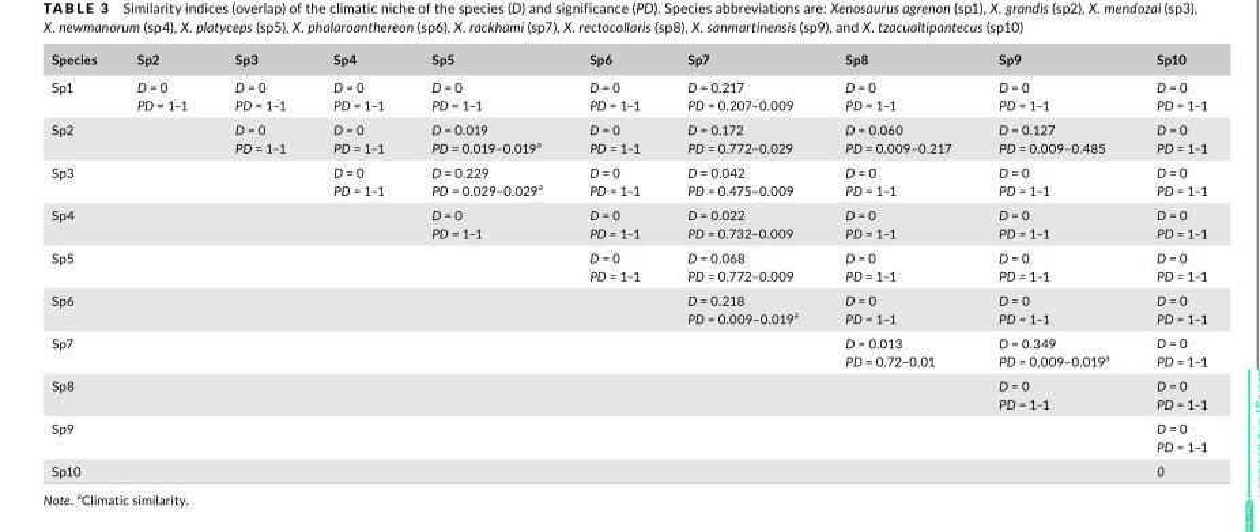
<table><thead><tr><td>Species</td><td>Sp2</td><td>Sp3</td><td>Sp4</td><td>Sp5</td><td>Sp6</td><td>Sp7</td><td>Sp8</td><td>Sp9</td><td>Sp10</td></tr></thead><tbody><tr><td>Sp1</td><td>D = 0 PD = 1–1</td><td>D = 0 PD = 1–1</td><td>D = 0 PD = 1–1</td><td>D = 0 PD = 1–1</td><td>D = 0 PD = 1–1</td><td>D = 0.217 PD = 0.207–0.009</td><td>D = 0 PD = 1–1</td><td>D = 0 PD = 1–1</td><td>D = 0 PD = 1–1</td></tr><tr><td>Sp2</td><td></td><td>D = 0 PD = 1–1</td><td>D = 0 PD = 1–1</td><td>D = 0.019 PD = 0.019–0.019<sup>a</sup></td><td>D = 0 PD = 1–1</td><td>D = 0.172 PD = 0.772–0.029</td><td>D = 0.060 PD = 0.009–0.217</td><td>D = 0.127 PD = 0.009–0.485</td><td>D = 0 PD = 1–1</td></tr><tr><td>Sp3</td><td></td><td></td><td>D = 0 PD = 1–1</td><td>D = 0.229 PD = 0.029–0.029<sup>a</sup></td><td>D = 0 PD = 1–1</td><td>D = 0.042 PD = 0.475–0.009</td><td>D = 0 PD = 1–1</td><td>D = 0 PD = 1–1</td><td>D = 0 PD = 1–1</td></tr><tr><td>Sp4</td><td></td><td></td><td></td><td>D = 0 PD = 1–1</td><td>D = 0 PD = 1–1</td><td>D = 0.022 PD = 0.732–0.009</td><td>D = 0 PD = 1–1</td><td>D = 0 PD = 1–1</td><td>D = 0 PD = 1–1</td></tr><tr><td>Sp5</td><td></td><td></td><td></td><td></td><td>D = 0 PD = 1–1</td><td>D = 0.068 PD = 0.772–0.009</td><td>D = 0 PD = 1–1</td><td>D = 0 PD = 1–1</td><td>D = 0 PD = 1–1</td></tr><tr><td>Sp6</td><td></td><td></td><td></td><td></td><td></td><td>D = 0.218 PD = 0.009–0.019<sup>a</sup></td><td>D = 0 PD = 1–1</td><td>D = 0 PD = 1–1</td><td>D = 0 PD = 1–1</td></tr><tr><td>Sp7</td><td></td><td></td><td></td><td></td><td></td><td></td><td>D = 0.013 PD = 0.72–0.01</td><td>D = 0.349 PD = 0.009–0.019<sup>a</sup></td><td>D = 0 PD = 1–1</td></tr><tr><td>Sp8</td><td></td><td></td><td></td><td></td><td></td><td></td><td></td><td>D = 0 PD = 1–1</td><td>D = 0 PD = 1–1</td></tr><tr><td>Sp9</td><td></td><td></td><td></td><td></td><td></td><td></td><td></td><td></td><td>D = 0 PD = 1–1</td></tr><tr><td>Sp10</td><td></td><td></td><td></td><td></td><td></td><td></td><td></td><td></td><td>0</td></tr></tbody></table>